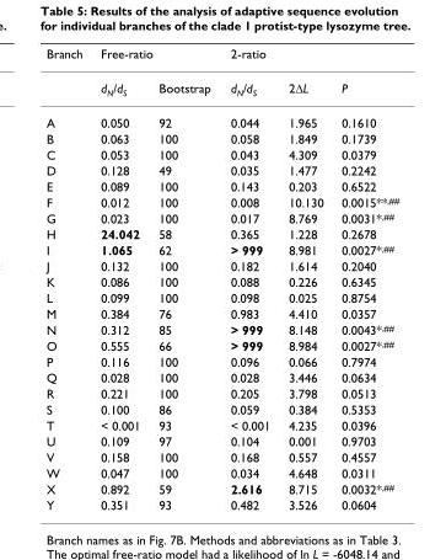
<table><thead><tr><td rowspan="2">Branch</td><td colspan="2">Free-ratio</td><td colspan="3">2-ratio</td></tr><tr><td>d<sub>N</sub>/d<sub>S</sub></td><td>Bootstrap</td><td>d<sub>N</sub>/d<sub>S</sub></td><td>2ΔL</td><td>P</td></tr></thead><tbody><tr><td>A</td><td>0.050</td><td>92</td><td>0.044</td><td>1.965</td><td>0.1610</td></tr><tr><td>B</td><td>0.063</td><td>100</td><td>0.058</td><td>1.849</td><td>0.1739</td></tr><tr><td>C</td><td>0.053</td><td>100</td><td>0.043</td><td>4.309</td><td>0.0379</td></tr><tr><td>D</td><td>0.128</td><td>49</td><td>0.035</td><td>1.477</td><td>0.2242</td></tr><tr><td>E</td><td>0.089</td><td>100</td><td>0.143</td><td>0.203</td><td>0.6522</td></tr><tr><td>F</td><td>0.012</td><td>100</td><td>0.008</td><td>10.130</td><td>0.0015**<sup>,##</sup></td></tr><tr><td>G</td><td>0.023</td><td>100</td><td>0.017</td><td>8.769</td><td>0.0031*<sup>,##</sup></td></tr><tr><td>H</td><td>24.042</td><td>58</td><td>0.365</td><td>1.228</td><td>0.2678</td></tr><tr><td>I</td><td>1.065</td><td>62</td><td>&gt; 999</td><td>8.981</td><td>0.0027*<sup>,##</sup></td></tr><tr><td>J</td><td>0.132</td><td>100</td><td>0.182</td><td>1.614</td><td>0.2040</td></tr><tr><td>K</td><td>0.086</td><td>100</td><td>0.088</td><td>0.226</td><td>0.6345</td></tr><tr><td>L</td><td>0.099</td><td>100</td><td>0.098</td><td>0.025</td><td>0.8754</td></tr><tr><td>M</td><td>0.384</td><td>76</td><td>0.983</td><td>4.410</td><td>0.0357</td></tr><tr><td>N</td><td>0.312</td><td>85</td><td>&gt; 999</td><td>8.148</td><td>0.0043*<sup>,##</sup></td></tr><tr><td>O</td><td>0.555</td><td>66</td><td>&gt; 999</td><td>8.984</td><td>0.0027*<sup>,##</sup></td></tr><tr><td>P</td><td>0.116</td><td>100</td><td>0.096</td><td>0.066</td><td>0.7974</td></tr><tr><td>Q</td><td>0.028</td><td>100</td><td>0.028</td><td>3.446</td><td>0.0634</td></tr><tr><td>R</td><td>0.221</td><td>100</td><td>0.205</td><td>3.798</td><td>0.0513</td></tr><tr><td>S</td><td>0.100</td><td>86</td><td>0.059</td><td>0.384</td><td>0.5353</td></tr><tr><td>T</td><td>&lt; 0.001</td><td>93</td><td>&lt; 0.001</td><td>4.235</td><td>0.0396</td></tr><tr><td>U</td><td>0.109</td><td>97</td><td>0.104</td><td>0.001</td><td>0.9703</td></tr><tr><td>V</td><td>0.158</td><td>100</td><td>0.168</td><td>0.557</td><td>0.4557</td></tr><tr><td>W</td><td>0.047</td><td>100</td><td>0.034</td><td>4.648</td><td>0.0311</td></tr><tr><td>X</td><td>0.892</td><td>59</td><td>2.616</td><td>8.715</td><td>0.0032*<sup>,##</sup></td></tr><tr><td>Y</td><td>0.351</td><td>93</td><td>0.482</td><td>3.526</td><td>0.0604</td></tr></tbody></table>